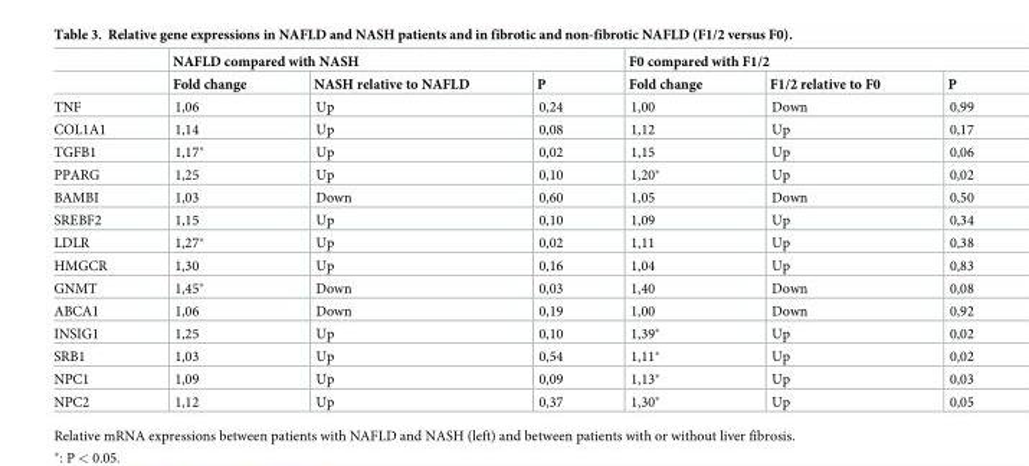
<table><thead><tr><td rowspan="2"></td><td colspan="3">NAFLD compared with NASH</td><td colspan="3">F0 compared with F1/2</td></tr><tr><td>Fold change</td><td>NASH relative to NAFLD</td><td>P</td><td>Fold change</td><td>F1/2 relative to F0</td><td>P</td></tr></thead><tbody><tr><td>TNF</td><td>1,06</td><td>Up</td><td>0,24</td><td>1,00</td><td>Down</td><td>0,99</td></tr><tr><td>COL1A1</td><td>1,14</td><td>Up</td><td>0,08</td><td>1,12</td><td>Up</td><td>0,17</td></tr><tr><td>TGFB1</td><td>1,17*</td><td>Up</td><td>0,02</td><td>1,15</td><td>Up</td><td>0,06</td></tr><tr><td>PPARG</td><td>1,25</td><td>Up</td><td>0,10</td><td>1,20*</td><td>Up</td><td>0,02</td></tr><tr><td>BAMBI</td><td>1,03</td><td>Down</td><td>0,60</td><td>1,05</td><td>Down</td><td>0,50</td></tr><tr><td>SREBF2</td><td>1,15</td><td>Up</td><td>0,10</td><td>1,09</td><td>Up</td><td>0,34</td></tr><tr><td>LDLR</td><td>1,27*</td><td>Up</td><td>0,02</td><td>1,11</td><td>Up</td><td>0,38</td></tr><tr><td>HMGCR</td><td>1,30</td><td>Up</td><td>0,16</td><td>1,04</td><td>Up</td><td>0,83</td></tr><tr><td>GNMT</td><td>1,45*</td><td>Down</td><td>0,03</td><td>1,40</td><td>Down</td><td>0,08</td></tr><tr><td>ABCA1</td><td>1,06</td><td>Down</td><td>0,19</td><td>1,00</td><td>Down</td><td>0,92</td></tr><tr><td>INSIG1</td><td>1,25</td><td>Up</td><td>0,10</td><td>1,39*</td><td>Up</td><td>0,02</td></tr><tr><td>SRB1</td><td>1,03</td><td>Up</td><td>0,54</td><td>1,11*</td><td>Up</td><td>0,02</td></tr><tr><td>NPC1</td><td>1,09</td><td>Up</td><td>0,09</td><td>1,13*</td><td>Up</td><td>0,03</td></tr><tr><td>NPC2</td><td>1,12</td><td>Up</td><td>0,37</td><td>1,30*</td><td>Up</td><td>0,05</td></tr></tbody></table>